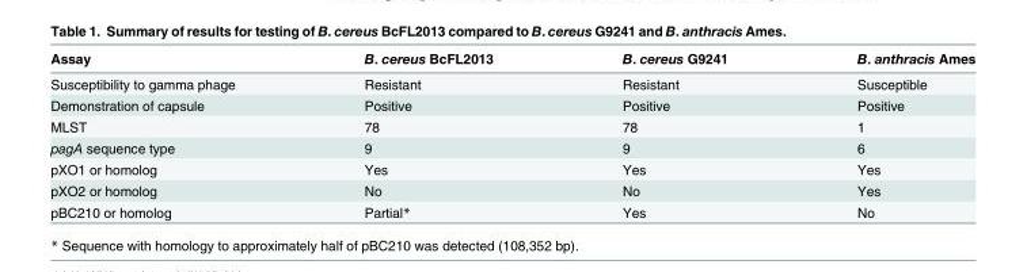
<table><thead><tr><td>Assay</td><td>B. cereus BcFL2013</td><td>B. cereus G9241</td><td>B. anthracis Ames</td></tr></thead><tbody><tr><td>Susceptibility to gamma phage</td><td>Resistant</td><td>Resistant</td><td>Susceptible</td></tr><tr><td>Demonstration of capsule</td><td>Positive</td><td>Positive</td><td>Positive</td></tr><tr><td>MLST</td><td>78</td><td>78</td><td>1</td></tr><tr><td>pagA sequence type</td><td>9</td><td>9</td><td>6</td></tr><tr><td>pXO1 or homolog</td><td>Yes</td><td>Yes</td><td>Yes</td></tr><tr><td>pXO2 or homolog</td><td>No</td><td>No</td><td>Yes</td></tr><tr><td>pBC210 or homolog</td><td>Partial*</td><td>Yes</td><td>No</td></tr></tbody></table>